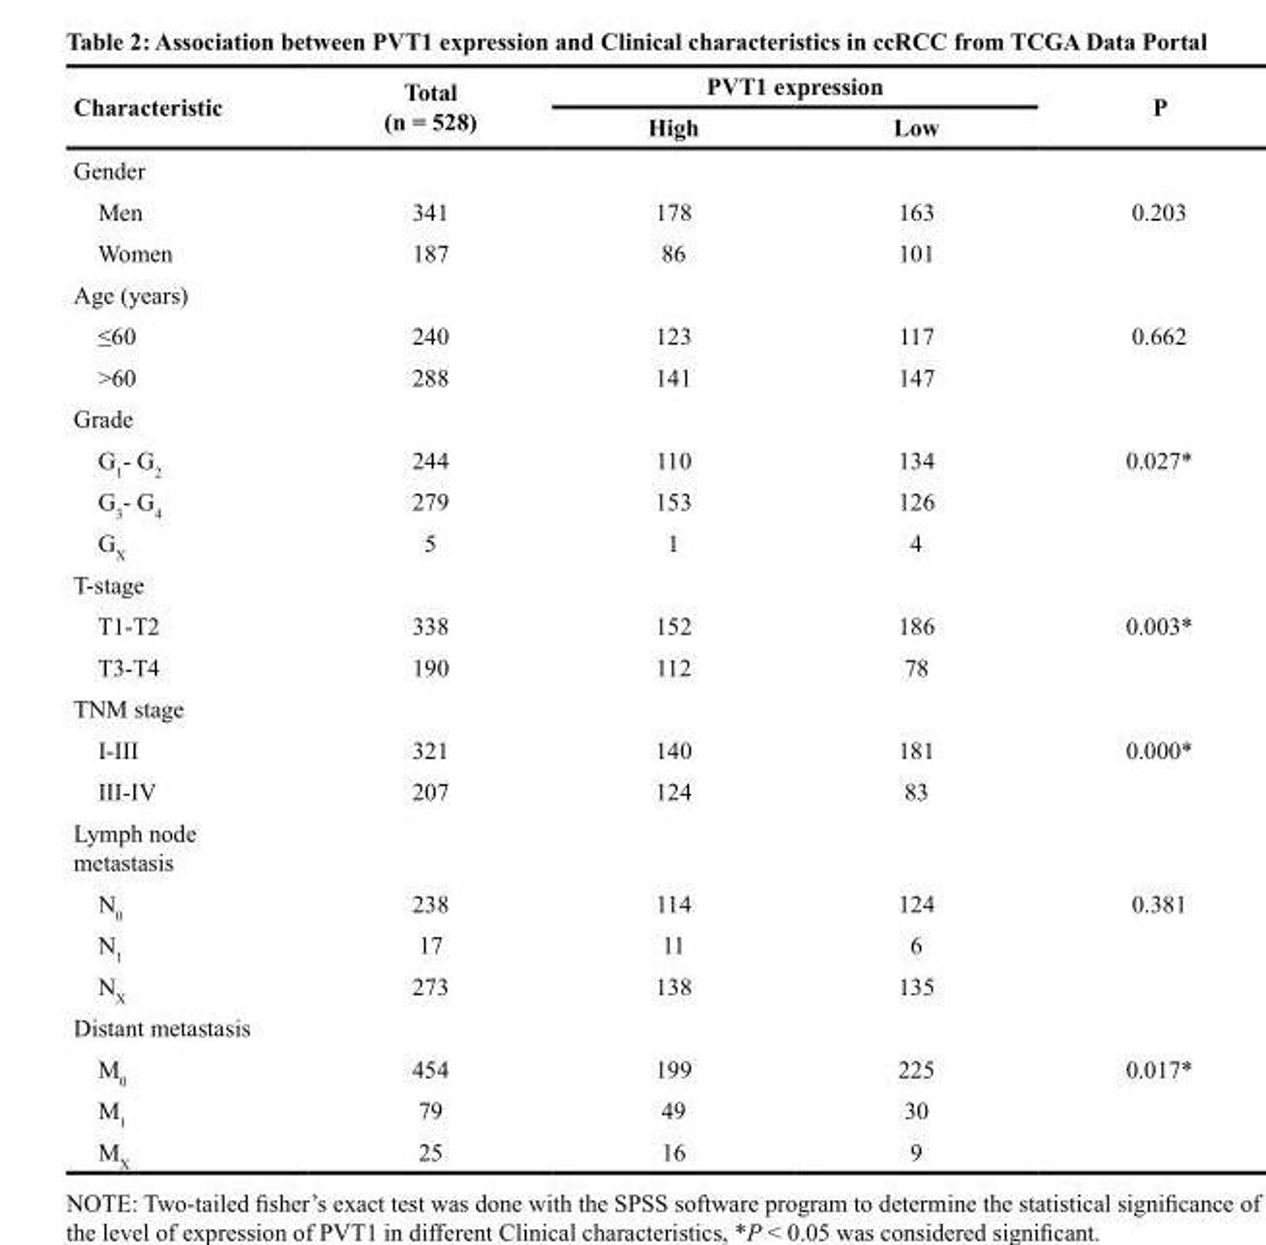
<table><thead><tr><td rowspan="2">Characteristic</td><td rowspan="2">Total (n = 528)</td><td colspan="2">PVT1 expression</td><td rowspan="2">P</td></tr><tr><td>High</td><td>Low</td></tr></thead><tbody><tr><td colspan="5">Gender</td></tr><tr><td>Men</td><td>341</td><td>178</td><td>163</td><td>0.203</td></tr><tr><td>Women</td><td>187</td><td>86</td><td>101</td><td></td></tr><tr><td colspan="5">Age (years)</td></tr><tr><td>≤60</td><td>240</td><td>123</td><td>117</td><td>0.662</td></tr><tr><td>&gt;60</td><td>288</td><td>141</td><td>147</td><td></td></tr><tr><td colspan="5">Grade</td></tr><tr><td>G<sub>1</sub>- G<sub>2</sub></td><td>244</td><td>110</td><td>134</td><td>0.027*</td></tr><tr><td>G<sub>3</sub>- G<sub>4</sub></td><td>279</td><td>153</td><td>126</td><td></td></tr><tr><td>G<sub>X</sub></td><td>5</td><td>1</td><td>4</td><td></td></tr><tr><td colspan="5">T-stage</td></tr><tr><td>T1-T2</td><td>338</td><td>152</td><td>186</td><td>0.003*</td></tr><tr><td>T3-T4</td><td>190</td><td>112</td><td>78</td><td></td></tr><tr><td colspan="5">TNM stage</td></tr><tr><td>I-III</td><td>321</td><td>140</td><td>181</td><td>0.000*</td></tr><tr><td>III-IV</td><td>207</td><td>124</td><td>83</td><td></td></tr><tr><td colspan="5">Lymph node metastasis</td></tr><tr><td>N<sub>0</sub></td><td>238</td><td>114</td><td>124</td><td>0.381</td></tr><tr><td>N<sub>1</sub></td><td>17</td><td>11</td><td>6</td><td></td></tr><tr><td>N<sub>X</sub></td><td>273</td><td>138</td><td>135</td><td></td></tr><tr><td colspan="5">Distant metastasis</td></tr><tr><td>M<sub>0</sub></td><td>454</td><td>199</td><td>225</td><td>0.017*</td></tr><tr><td>M<sub>1</sub></td><td>79</td><td>49</td><td>30</td><td></td></tr><tr><td>M<sub>X</sub></td><td>25</td><td>16</td><td>9</td><td></td></tr></tbody></table>